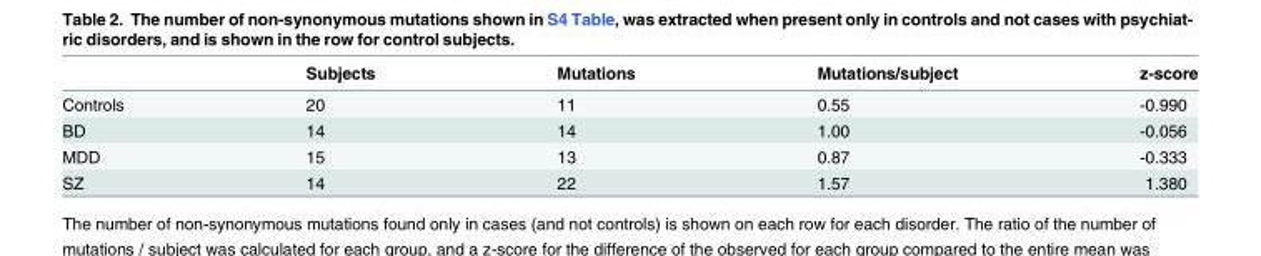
<table><thead><tr><td></td><td>Subjects</td><td>Mutations</td><td>Mutations/subject</td><td>z-score</td></tr></thead><tbody><tr><td>Controls</td><td>20</td><td>11</td><td>0.55</td><td>-0.990</td></tr><tr><td>BD</td><td>14</td><td>14</td><td>1.00</td><td>-0.056</td></tr><tr><td>MDD</td><td>15</td><td>13</td><td>0.87</td><td>-0.333</td></tr><tr><td>SZ</td><td>14</td><td>22</td><td>1.57</td><td>1.380</td></tr></tbody></table>